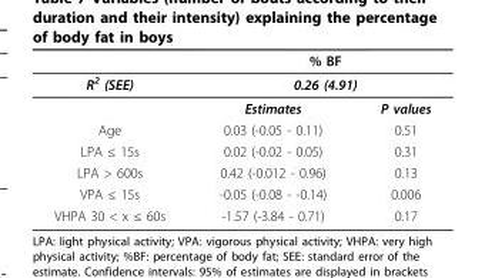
<table><thead><tr><td rowspan="3">R2 (SEE)</td><td rowspan="2" colspan="2">% BF 0.26 (4.91)</td></tr><tr></tr><tr><td>Estimates</td><td>P values</td></tr></thead><tbody><tr><td>Age</td><td>0.03 (-0.05 - 0.11)</td><td>0.51</td></tr><tr><td>LPA ≤ 15s</td><td>0.02 (-0.02 - 0.05)</td><td>0.31</td></tr><tr><td>LPA &gt; 600s</td><td>0.42 (-0.012 - 0.96)</td><td>0.13</td></tr><tr><td>VPA ≤ 15s</td><td>-0.05 (-0.08 - -0.14)</td><td>0.006</td></tr><tr><td>VHPA 30 &lt; x ≤ 60s</td><td>-1.57 (-3.84 - 0.71)</td><td>0.17</td></tr></tbody></table>